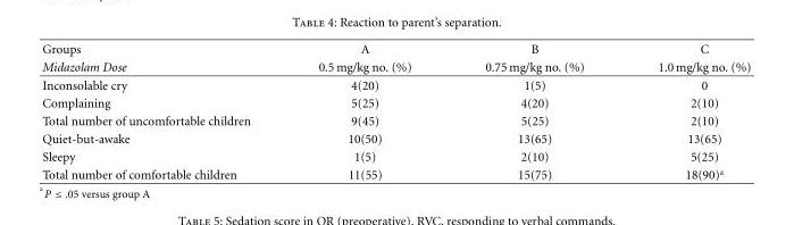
<table><thead><tr><td rowspan="2">Groups Midazolam Dose</td><td rowspan="2">A 0.5 mg/kg no. (%)</td><td rowspan="2">B 0.75 mg/kg no. (%)</td><td rowspan="2">C 1.0 mg/kg no. (%)</td></tr><tr></tr></thead><tbody><tr><td>Inconsolable cry</td><td>4(20)</td><td>1(5)</td><td>0</td></tr><tr><td>Complaining</td><td>5(25)</td><td>4(20)</td><td>2(10)</td></tr><tr><td>Total number of uncomfortable children</td><td>9(45)</td><td>5(25)</td><td>2(10)</td></tr><tr><td>Quiet-but-awake</td><td>10(50)</td><td>13(65)</td><td>13(65)</td></tr><tr><td>Sleepy</td><td>1(5)</td><td>2(10)</td><td>5(25)</td></tr><tr><td>Total number of comfortable children</td><td>11(55)</td><td>15(75)</td><td>18(90)<sup>a</sup></td></tr></tbody></table>